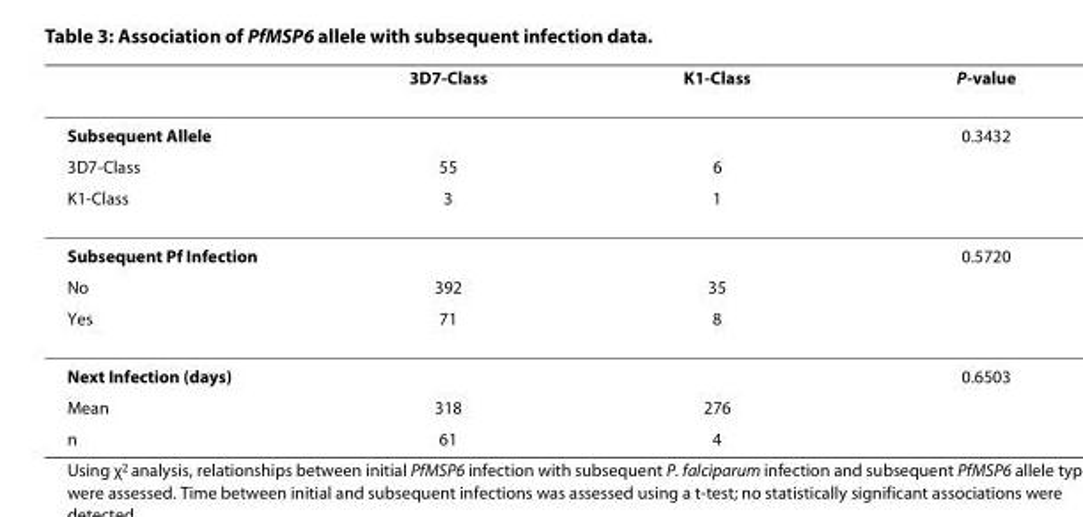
<table><thead><tr><td></td><td>3D7-Class</td><td>K1-Class</td><td>P-value</td></tr></thead><tbody><tr><td>Subsequent Allele</td><td></td><td></td><td>0.3432</td></tr><tr><td>3D7-Class</td><td>55</td><td>6</td><td></td></tr><tr><td>K1-Class</td><td>3</td><td>1</td><td></td></tr><tr><td>Subsequent Pf Infection</td><td></td><td></td><td>0.5720</td></tr><tr><td>No</td><td>392</td><td>35</td><td></td></tr><tr><td>Yes</td><td>71</td><td>8</td><td></td></tr><tr><td>Next Infection (days)</td><td></td><td></td><td>0.6503</td></tr><tr><td>Mean</td><td>318</td><td>276</td><td></td></tr><tr><td>n</td><td>61</td><td>4</td><td></td></tr></tbody></table>